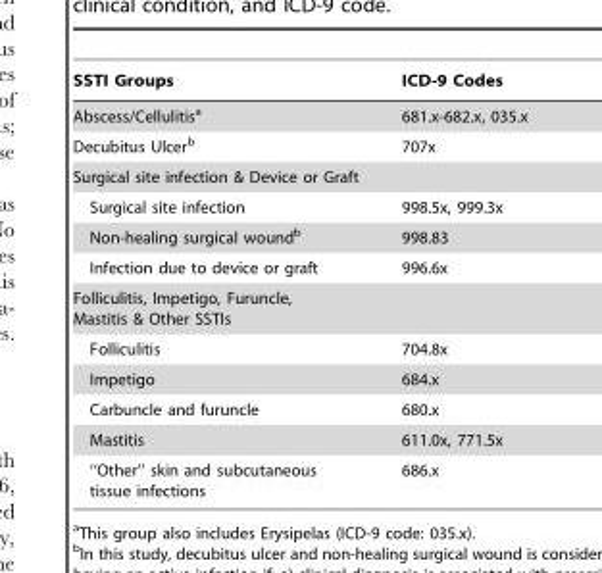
<table><thead><tr><td>SSTI Groups</td><td>ICD-9 Codes</td></tr></thead><tbody><tr><td>Abscess/Cellulitis<sup>a</sup></td><td>681.x-682.x, 035.x</td></tr><tr><td>Decubitus Ulcer<sup>b</sup></td><td>707x</td></tr><tr><td colspan="2">Surgical site infection &amp; Device or Graft</td></tr><tr><td>Surgical site infection</td><td>998.5x, 999.3x</td></tr><tr><td>Non-healing surgical wound<sup>b</sup></td><td>998.83</td></tr><tr><td>Infection due to device or graft</td><td>996.6x</td></tr><tr><td colspan="2">Folliculitis, Impetigo, Furuncle, Mastitis &amp; Other SSTIs</td></tr><tr><td>Folliculitis</td><td>704.8x</td></tr><tr><td>Impetigo</td><td>684.x</td></tr><tr><td>Carbuncle and furuncle</td><td>680.x</td></tr><tr><td>Mastitis</td><td>611.0x, 771.5x</td></tr><tr><td>‘‘Other’’ skin and subcutaneous tissue infections</td><td>686.x</td></tr></tbody></table>